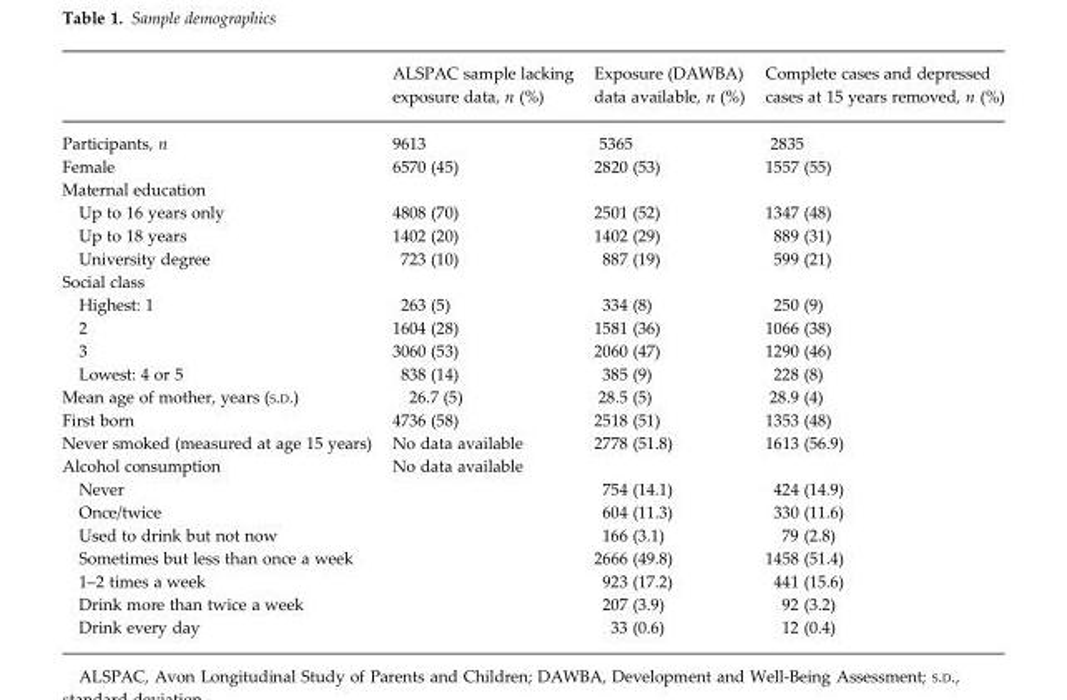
<table><thead><tr><td></td><td>ALSPAC sample lacking exposure data, n (%)</td><td>Exposure (DAWBA) data available, n (%)</td><td>Complete cases and depressed cases at 15 years removed, n (%)</td></tr></thead><tbody><tr><td>Participants, n</td><td>9613</td><td>5365</td><td>2835</td></tr><tr><td>Female</td><td>6570 (45)</td><td>2820 (53)</td><td>1557 (55)</td></tr><tr><td colspan="4">Maternal education</td></tr><tr><td>Up to 16 years only</td><td>4808 (70)</td><td>2501 (52)</td><td>1347 (48)</td></tr><tr><td>Up to 18 years</td><td>1402 (20)</td><td>1402 (29)</td><td>889 (31)</td></tr><tr><td>University degree</td><td>723 (10)</td><td>887 (19)</td><td>599 (21)</td></tr><tr><td colspan="4">Social class</td></tr><tr><td>Highest: 1</td><td>263 (5)</td><td>334 (8)</td><td>250 (9)</td></tr><tr><td>2</td><td>1604 (28)</td><td>1581 (36)</td><td>1066 (38)</td></tr><tr><td>3</td><td>3060 (53)</td><td>2060 (47)</td><td>1290 (46)</td></tr><tr><td>Lowest: 4 or 5</td><td>838 (14)</td><td>385 (9)</td><td>228 (8)</td></tr><tr><td>Mean age of mother, years (S.D.)</td><td>26.7 (5)</td><td>28.5 (5)</td><td>28.9 (4)</td></tr><tr><td>First born</td><td>4736 (58)</td><td>2518 (51)</td><td>1353 (48)</td></tr><tr><td>Never smoked (measured at age 15 years)</td><td>No data available</td><td>2778 (51.8)</td><td>1613 (56.9)</td></tr><tr><td>Alcohol consumption</td><td>No data available</td><td></td><td></td></tr><tr><td>Never</td><td></td><td>754 (14.1)</td><td>424 (14.9)</td></tr><tr><td>Once/twice</td><td></td><td>604 (11.3)</td><td>330 (11.6)</td></tr><tr><td>Used to drink but not now</td><td></td><td>166 (3.1)</td><td>79 (2.8)</td></tr><tr><td>Sometimes but less than once a week</td><td></td><td>2666 (49.8)</td><td>1458 (51.4)</td></tr><tr><td>1–2 times a week</td><td></td><td>923 (17.2)</td><td>441 (15.6)</td></tr><tr><td>Drink more than twice a week</td><td></td><td>207 (3.9)</td><td>92 (3.2)</td></tr><tr><td>Drink every day</td><td></td><td>33 (0.6)</td><td>12 (0.4)</td></tr></tbody></table>